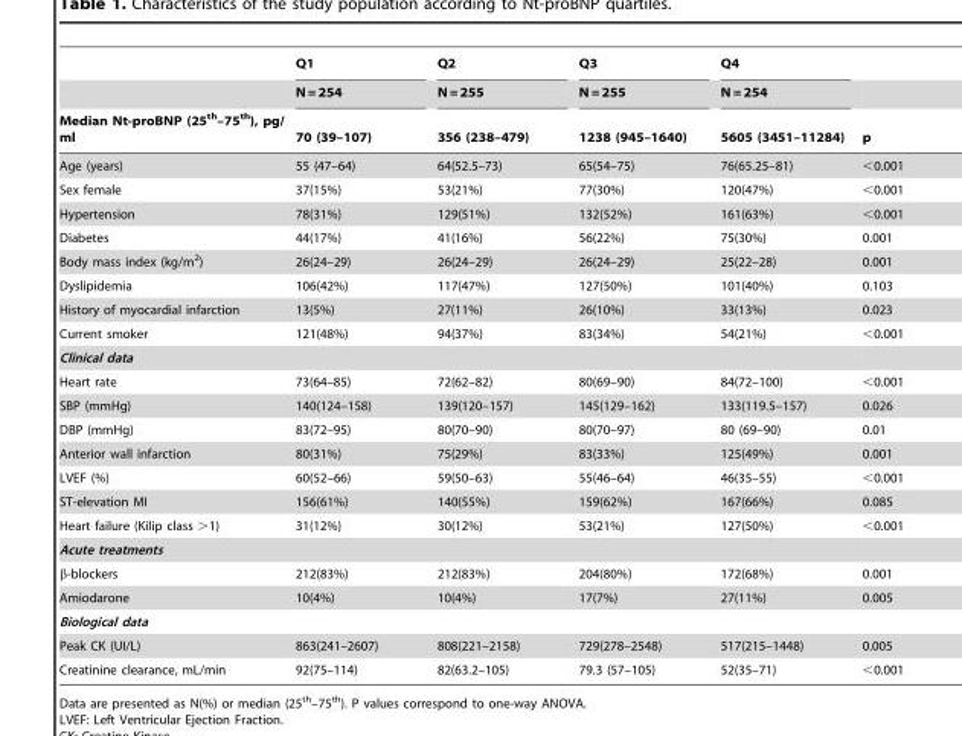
<table><thead><tr><td rowspan="3">Median Nt-proBNP (25<sup>th</sup>–75<sup>th</sup>), pg/ ml</td><td rowspan="3">Q1 N = 254 70 (39–107)</td><td rowspan="3">Q2 N = 255 356 (238–479)</td><td rowspan="3">Q3 N = 255 1238 (945–1640)</td><td rowspan="3">Q4 N = 254 5605 (3451–11284)</td><td rowspan="3">p</td></tr><tr></tr><tr></tr></thead><tbody><tr><td>Age (years)</td><td>55 (47–64)</td><td>64(52.5–73)</td><td>65(54–75)</td><td>76(65.25–81)</td><td>&lt;0.001</td></tr><tr><td>Sex female</td><td>37(15%)</td><td>53(21%)</td><td>77(30%)</td><td>120(47%)</td><td>&lt;0.001</td></tr><tr><td>Hypertension</td><td>78(31%)</td><td>129(51%)</td><td>132(52%)</td><td>161(63%)</td><td>&lt;0.001</td></tr><tr><td>Diabetes</td><td>44(17%)</td><td>41(16%)</td><td>56(22%)</td><td>75(30%)</td><td>0.001</td></tr><tr><td>Body mass index (kg/m<sup>2</sup>)</td><td>26(24–29)</td><td>26(24–29)</td><td>26(24–29)</td><td>25(22–28)</td><td>0.001</td></tr><tr><td>Dyslipidemia</td><td>106(42%)</td><td>117(47%)</td><td>127(50%)</td><td>101(40%)</td><td>0.103</td></tr><tr><td>History of myocardial infarction</td><td>13(5%)</td><td>27(11%)</td><td>26(10%)</td><td>33(13%)</td><td>0.023</td></tr><tr><td>Current smoker</td><td>121(48%)</td><td>94(37%)</td><td>83(34%)</td><td>54(21%)</td><td>&lt;0.001</td></tr><tr><td colspan="6">Clinical data</td></tr><tr><td>Heart rate</td><td>73(64–85)</td><td>72(62–82)</td><td>80(69–90)</td><td>84(72–100)</td><td>&lt;0.001</td></tr><tr><td>SBP (mmHg)</td><td>140(124–158)</td><td>139(120–157)</td><td>145(129–162)</td><td>133(119.5–157)</td><td>0.026</td></tr><tr><td>DBP (mmHg)</td><td>83(72–95)</td><td>80(70–90)</td><td>80(70–97)</td><td>80 (69–90)</td><td>0.01</td></tr><tr><td>Anterior wall infarction</td><td>80(31%)</td><td>75(29%)</td><td>83(33%)</td><td>125(49%)</td><td>0.001</td></tr><tr><td>LVEF (%)</td><td>60(52–66)</td><td>59(50–63)</td><td>55(46–64)</td><td>46(35–55)</td><td>&lt;0.001</td></tr><tr><td>ST-elevation MI</td><td>156(61%)</td><td>140(55%)</td><td>159(62%)</td><td>167(66%)</td><td>0.085</td></tr><tr><td>Heart failure (Kilip class &gt;1)</td><td>31(12%)</td><td>30(12%)</td><td>53(21%)</td><td>127(50%)</td><td>&lt;0.001</td></tr><tr><td colspan="6">Acute treatments</td></tr><tr><td>β-blockers</td><td>212(83%)</td><td>212(83%)</td><td>204(80%)</td><td>172(68%)</td><td>0.001</td></tr><tr><td>Amiodarone</td><td>10(4%)</td><td>10(4%)</td><td>17(7%)</td><td>27(11%)</td><td>0.005</td></tr><tr><td colspan="6">Biological data</td></tr><tr><td>Peak CK (UI/L)</td><td>863(241–2607)</td><td>808(221–2158)</td><td>729(278–2548)</td><td>517(215–1448)</td><td>0.005</td></tr><tr><td>Creatinine clearance, mL/min</td><td>92(75–114)</td><td>82(63.2–105)</td><td>79.3 (57–105)</td><td>52(35–71)</td><td>&lt;0.001</td></tr></tbody></table>